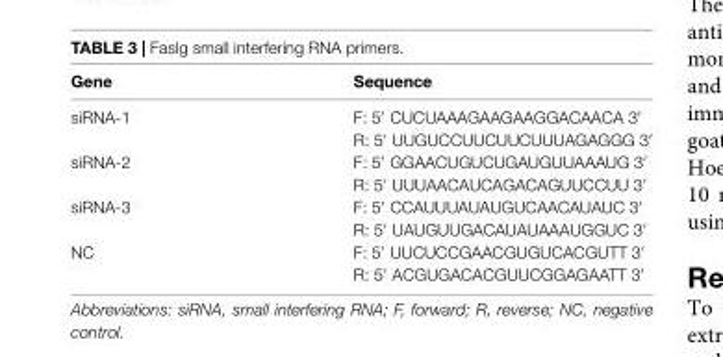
<table><thead><tr><td>Gene</td><td>Sequence</td></tr></thead><tbody><tr><td rowspan="2">siRNA-1</td><td>F: 5′ CUCUAAAGAAGAAGGACAACA 3′</td></tr><tr><td>R: 5′ UUGUCCUUCUUCUUUAGAGGG 3′</td></tr><tr><td rowspan="2">siRNA-2</td><td>F: 5′ GGAACUGUCUGAUGUUAAAUG 3′</td></tr><tr><td>R: 5′ UUUAACAUCAGACAGUUCCUU 3′</td></tr><tr><td rowspan="2">siRNA-3</td><td>F: 5′ CCAUUUAUAUGUCAACAUAUC 3′</td></tr><tr><td>R: 5′ UAUGUUGACAUAUAAAUGGUC 3′</td></tr><tr><td rowspan="2">NC</td><td>F: 5′ UUCUCCGAACGUGUCACGUTT 3′</td></tr><tr><td>R: 5′ ACGUGACACGUUCGGAGAATT 3′</td></tr></tbody></table>